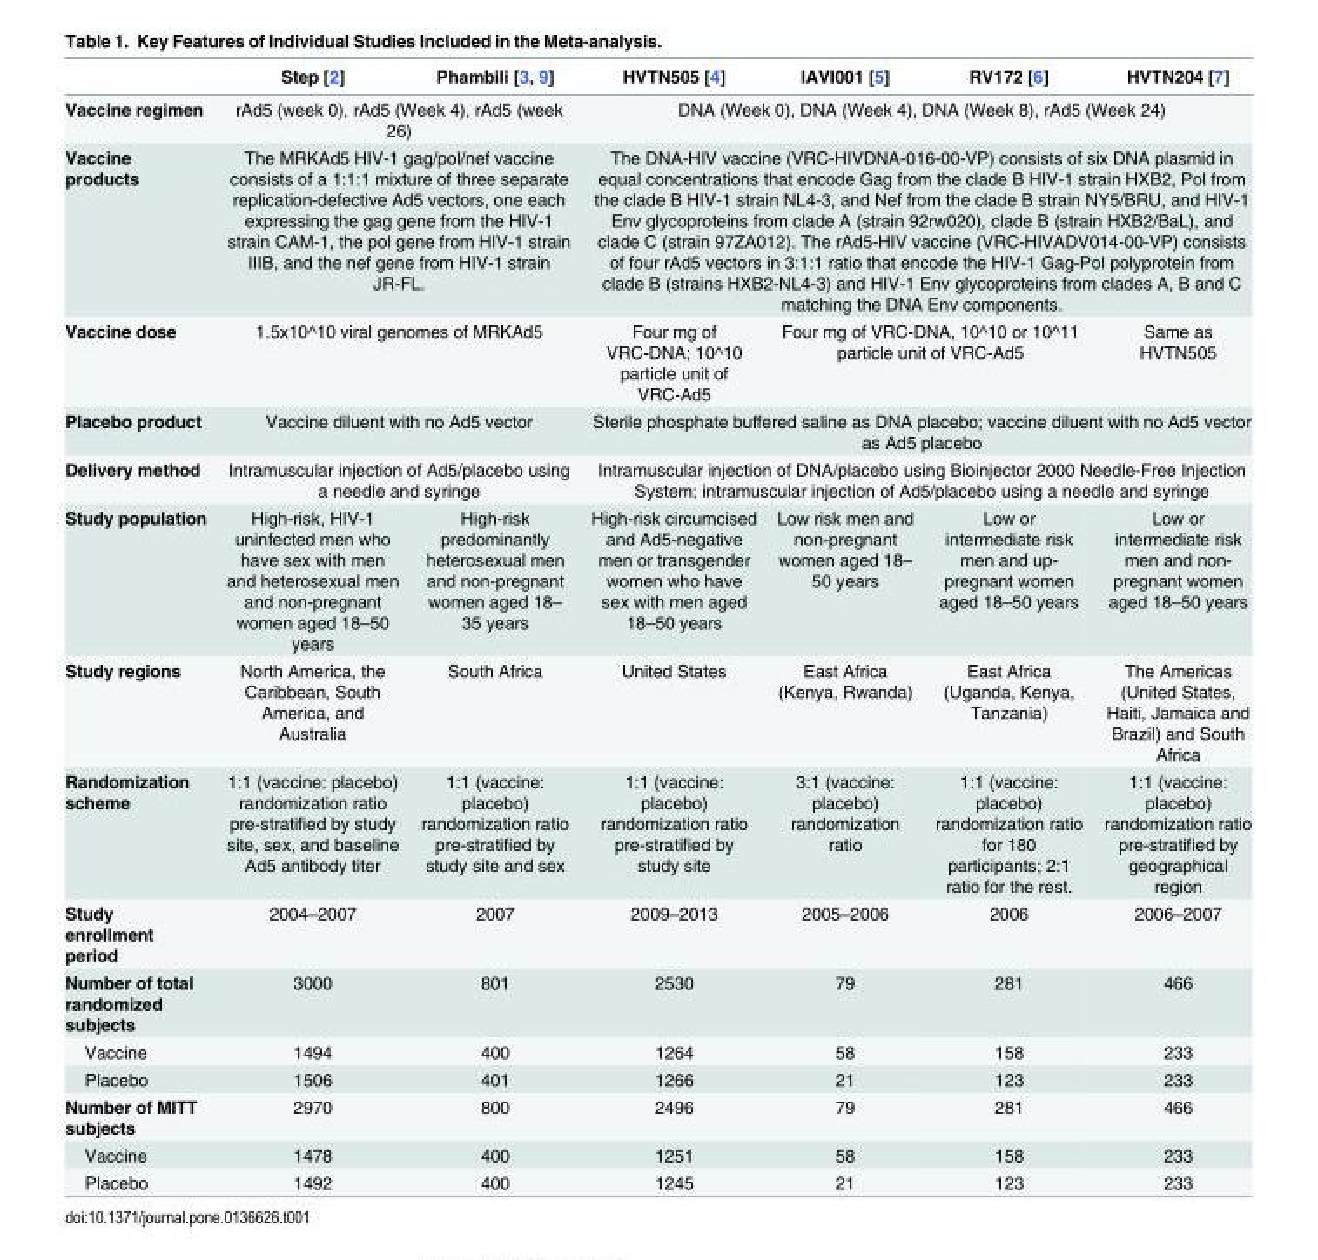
<table><thead><tr><td></td><td>Step [2]</td><td>Phambili [3, 9]</td><td>HVTN505 [4]</td><td>IAVI001 [5]</td><td>RV172 [6]</td><td>HVTN204 [7]</td></tr></thead><tbody><tr><td>Vaccine regimen</td><td colspan="2">rAd5 (week 0), rAd5 (Week 4), rAd5 (week 26)</td><td colspan="4">DNA (Week 0), DNA (Week 4), DNA (Week 8), rAd5 (Week 24)</td></tr><tr><td>Vaccine products</td><td colspan="2">The MRKAd5 HIV-1 gag/pol/nef vaccine consists of a 1:1:1 mixture of three separate replication-defective Ad5 vectors, one each expressing the gag gene from the HIV-1 strain CAM-1, the pol gene from HIV-1 strain IIIB, and the nef gene from HIV-1 strain JR-FL.</td><td colspan="4">The DNA-HIV vaccine (VRC-HIVDNA-016-00-VP) consists of six DNA plasmid in equal concentrations that encode Gag from the clade B HIV-1 strain HXB2, Pol from the clade B HIV-1 strain NL4-3, and Nef from the clade B strain NY5/BRU, and HIV-1 Env glycoproteins from clade A (strain 92rw020), clade B (strain HXB2/BaL), and clade C (strain 97ZA012). The rAd5-HIV vaccine (VRC-HIVADV014-00-VP) consists of four rAd5 vectors in 3:1:1 ratio that encode the HIV-1 Gag-Pol polyprotein from clade B (strains HXB2-NL4-3) and HIV-1 Env glycoproteins from clades A, B and C matching the DNA Env components.</td></tr><tr><td>Vaccine dose</td><td colspan="2">1.5x10^10 viral genomes of MRKAd5</td><td>Four mg of VRC-DNA; 10^10 particle unit of VRC-Ad5</td><td colspan="2">Four mg of VRC-DNA, 10^10 or 10^11 particle unit of VRC-Ad5</td><td>Same as HVTN505</td></tr><tr><td>Placebo product</td><td colspan="2">Vaccine diluent with no Ad5 vector</td><td colspan="4">Sterile phosphate buffered saline as DNA placebo; vaccine diluent with no Ad5 vector as Ad5 placebo</td></tr><tr><td>Delivery method</td><td colspan="2">Intramuscular injection of Ad5/placebo using a needle and syringe</td><td colspan="4">Intramuscular injection of DNA/placebo using Bioinjector 2000 Needle-Free Injection System; intramuscular injection of Ad5/placebo using a needle and syringe</td></tr><tr><td>Study population</td><td>High-risk, HIV-1 uninfected men who have sex with men and heterosexual men and non-pregnant women aged 18–50 years</td><td>High-risk predominantly heterosexual men and non-pregnant women aged 18– 35 years</td><td>High-risk circumcised and Ad5-negative men or transgender women who have sex with men aged 18–50 years</td><td>Low risk men and non-pregnant women aged 18– 50 years</td><td>Low or intermediate risk men and up- pregnant women aged 18–50 years</td><td>Low or intermediate risk men and non- pregnant women aged 18–50 years</td></tr><tr><td>Study regions</td><td>North America, the Caribbean, South America, and Australia</td><td>South Africa</td><td>United States</td><td>East Africa (Kenya, Rwanda)</td><td>East Africa (Uganda, Kenya, Tanzania)</td><td>The Americas (United States, Haiti, Jamaica and Brazil) and South Africa</td></tr><tr><td>Randomization scheme</td><td>1:1 (vaccine: placebo) randomization ratio pre-stratified by study site, sex, and baseline Ad5 antibody titer</td><td>1:1 (vaccine: placebo) randomization ratio pre-stratified by study site and sex</td><td>1:1 (vaccine: placebo) randomization ratio pre-stratified by study site</td><td>3:1 (vaccine: placebo) randomization ratio</td><td>1:1 (vaccine: placebo) randomization ratio for 180 participants; 2:1 ratio for the rest.</td><td>1:1 (vaccine: placebo) randomization ratio pre-stratified by geographical region</td></tr><tr><td>Study enrollment period</td><td>2004–2007</td><td>2007</td><td>2009–2013</td><td>2005–2006</td><td>2006</td><td>2006–2007</td></tr><tr><td>Number of total randomized subjects</td><td>3000</td><td>801</td><td>2530</td><td>79</td><td>281</td><td>466</td></tr><tr><td>Vaccine</td><td>1494</td><td>400</td><td>1264</td><td>58</td><td>158</td><td>233</td></tr><tr><td>Placebo</td><td>1506</td><td>401</td><td>1266</td><td>21</td><td>123</td><td>233</td></tr><tr><td>Number of MITT subjects</td><td>2970</td><td>800</td><td>2496</td><td>79</td><td>281</td><td>466</td></tr><tr><td>Vaccine</td><td>1478</td><td>400</td><td>1251</td><td>58</td><td>158</td><td>233</td></tr><tr><td>Placebo</td><td>1492</td><td>400</td><td>1245</td><td>21</td><td>123</td><td>233</td></tr></tbody></table>